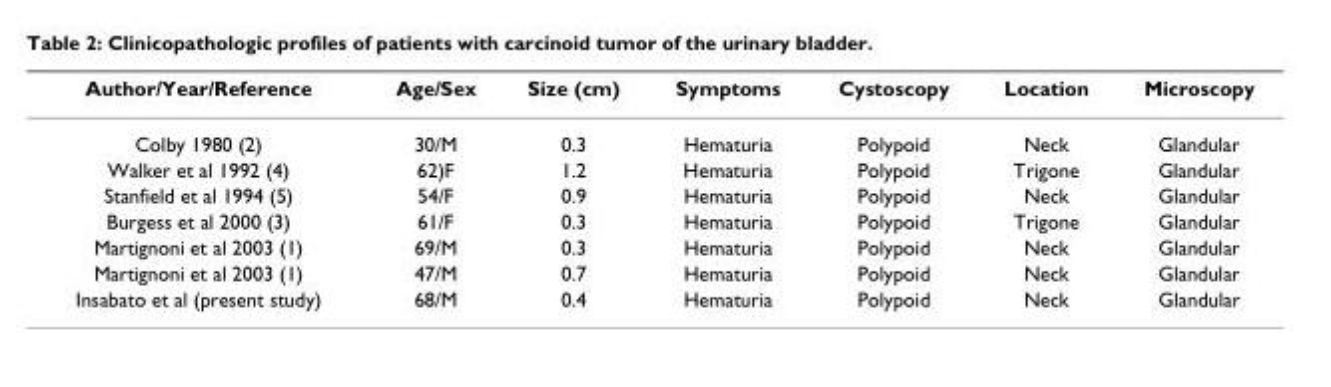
<table><thead><tr><td>Author/Year/Reference</td><td>Age/Sex</td><td>Size (cm)</td><td>Symptoms</td><td>Cystoscopy</td><td>Location</td><td>Microscopy</td></tr></thead><tbody><tr><td>Colby 1980 (2)</td><td>30/M</td><td>0.3</td><td>Hematuria</td><td>Polypoid</td><td>Neck</td><td>Glandular</td></tr><tr><td>Walker et al 1992 (4)</td><td>62)F</td><td>1.2</td><td>Hematuria</td><td>Polypoid</td><td>Trigone</td><td>Glandular</td></tr><tr><td>Stanfield et al 1994 (5)</td><td>54/F</td><td>0.9</td><td>Hematuria</td><td>Polypoid</td><td>Neck</td><td>Glandular</td></tr><tr><td>Burgess et al 2000 (3)</td><td>61/F</td><td>0.3</td><td>Hematuria</td><td>Polypoid</td><td>Trigone</td><td>Glandular</td></tr><tr><td>Martignoni et al 2003 (1)</td><td>69/M</td><td>0.3</td><td>Hematuria</td><td>Polypoid</td><td>Neck</td><td>Glandular</td></tr><tr><td>Martignoni et al 2003 (1)</td><td>47/M</td><td>0.7</td><td>Hematuria</td><td>Polypoid</td><td>Neck</td><td>Glandular</td></tr><tr><td>Insabato et al (present study)</td><td>68/M</td><td>0.4</td><td>Hematuria</td><td>Polypoid</td><td>Neck</td><td>Glandular</td></tr></tbody></table>